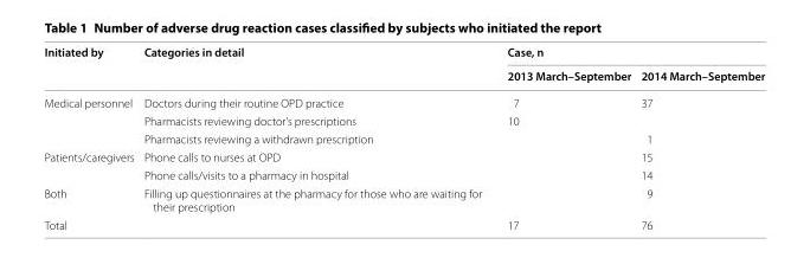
<table><thead><tr><td rowspan="2">Initiated by</td><td rowspan="2">Categories in detail</td><td colspan="2">Case, n</td></tr><tr><td>2013 March–September</td><td>2014 March–September</td></tr></thead><tbody><tr><td rowspan="3">Medical personnel</td><td>Doctors during their routine OPD practice</td><td>7</td><td>37</td></tr><tr><td>Pharmacists reviewing doctor’s prescriptions</td><td>10</td><td></td></tr><tr><td>Pharmacists reviewing a withdrawn prescription</td><td></td><td>1</td></tr><tr><td rowspan="2">Patients/caregivers</td><td>Phone calls to nurses at OPD</td><td></td><td>15</td></tr><tr><td>Phone calls/visits to a pharmacy in hospital</td><td></td><td>14</td></tr><tr><td>Both</td><td>Filling up questionnaires at the pharmacy for those who are waiting for their prescription</td><td></td><td>9</td></tr><tr><td>Total</td><td></td><td>17</td><td>76</td></tr></tbody></table>